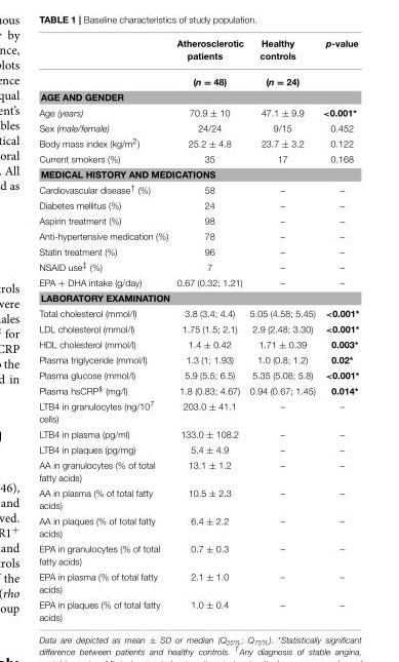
<table><thead><tr><td></td><td>Atherosclerotic patients</td><td>Healthy controls</td><td>p-value</td></tr></thead><tbody><tr><td></td><td>(n = 48)</td><td>(n = 24)</td><td></td></tr><tr><td colspan="4">AGE AND GENDER</td></tr><tr><td>Age (years)</td><td>70.9 ± 10</td><td>47.1 ± 9.9</td><td>&lt;0.001*</td></tr><tr><td>Sex (male/female)</td><td>24/24</td><td>9/15</td><td>0.452</td></tr><tr><td>Body mass index (kg/m<sup>2</sup>)</td><td>25.2 ± 4.8</td><td>23.7 ± 3.2</td><td>0.122</td></tr><tr><td>Current smokers (%)</td><td>35</td><td>17</td><td>0.168</td></tr><tr><td colspan="4">MEDICAL HISTORY AND MEDICATIONS</td></tr><tr><td>Cardiovascular disease<sup>†</sup> (%)</td><td>58</td><td>–</td><td>–</td></tr><tr><td>Diabetes mellitus (%)</td><td>24</td><td>–</td><td>–</td></tr><tr><td>Aspirin treatment (%)</td><td>98</td><td>–</td><td>–</td></tr><tr><td>Anti-hypertensive medication (%)</td><td>78</td><td>–</td><td>–</td></tr><tr><td>Statin treatment (%)</td><td>96</td><td>–</td><td>–</td></tr><tr><td>NSAID use<sup>‡</sup> (%)</td><td>7</td><td>–</td><td>–</td></tr><tr><td>EPA + DHA intake (g/day)</td><td>0.67 (0.32; 1.21)</td><td>–</td><td>–</td></tr><tr><td colspan="4">LABORATORY EXAMINATION</td></tr><tr><td>Total cholesterol (mmol/l)</td><td>3.8 (3.4; 4.4)</td><td>5.05 (4.58; 5.45)</td><td>&lt;0.001*</td></tr><tr><td>LDL cholesterol (mmol/l)</td><td>1.75 (1.5; 2.1)</td><td>2.9 (2.48; 3.30)</td><td>&lt;0.001*</td></tr><tr><td>HDL cholesterol (mmol/l)</td><td>1.4 ± 0.42</td><td>1.71 ± 0.39</td><td>0.003*</td></tr><tr><td>Plasma triglyceride (mmol/l)</td><td>1.3 (1; 1.93)</td><td>1.0 (0.8; 1.2)</td><td>0.02*</td></tr><tr><td>Plasma glucose (mmol/l)</td><td>5.9 (5.5; 6.5)</td><td>5.35 (5.08; 5.8)</td><td>&lt;0.001*</td></tr><tr><td>Plasma hsCRP<sup>§</sup> (mg/l)</td><td>1.8 (0.83; 4.67)</td><td>0.94 (0.67; 1.45)</td><td>0.014*</td></tr><tr><td>LTB4 in granulocytes (ng/10<sup>7</sup> cells)</td><td>203.0 ± 41.1</td><td>–</td><td>–</td></tr><tr><td>LTB4 in plasma (pg/ml)</td><td>133.0 ± 108.2</td><td>–</td><td>–</td></tr><tr><td>LTB4 in plaques (pg/mg)</td><td>5.4 ± 4.9</td><td>–</td><td>–</td></tr><tr><td>AA in granulocytes (% of total fatty acids)</td><td>13.1 ± 1.2</td><td>–</td><td>–</td></tr><tr><td>AA in plasma (% of total fatty acids)</td><td>10.5 ± 2.3</td><td>–</td><td>–</td></tr><tr><td>AA in plaques (% of total fatty acids)</td><td>6.4 ± 2.2</td><td>–</td><td>–</td></tr><tr><td>EPA in granulocytes (% of total fatty acids)</td><td>0.7 ± 0.3</td><td>–</td><td>–</td></tr><tr><td>EPA in plasma (% of total fatty acids)</td><td>2.1 ± 1.0</td><td>–</td><td>–</td></tr><tr><td>EPA in plaques (% of total fatty acids)</td><td>1.0 ± 0.4</td><td>–</td><td>–</td></tr></tbody></table>